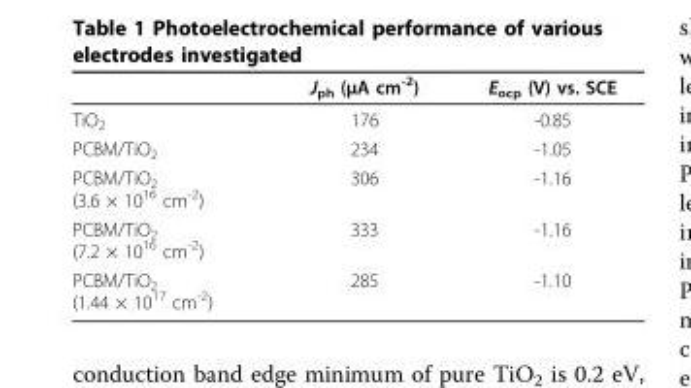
<table><thead><tr><td></td><td>J<sub>ph</sub> (μA cm<sup>-2</sup>)</td><td>E<sub>ocp</sub> (V) vs. SCE</td></tr></thead><tbody><tr><td>TiO<sub>2</sub></td><td>176</td><td>-0.85</td></tr><tr><td>PCBM/TiO<sub>2</sub></td><td>234</td><td>-1.05</td></tr><tr><td>PCBM/TiO<sub>2</sub> (3.6 × 10<sup>16</sup> cm<sup>-2</sup>)</td><td>306</td><td>-1.16</td></tr><tr><td>PCBM/TiO<sub>2</sub> (7.2 × 10<sup>16</sup> cm<sup>-2</sup>)</td><td>333</td><td>-1.16</td></tr><tr><td>PCBM/TiO<sub>2</sub> (1.44 × 10<sup>17</sup> cm<sup>-2</sup>)</td><td>285</td><td>-1.10</td></tr></tbody></table>